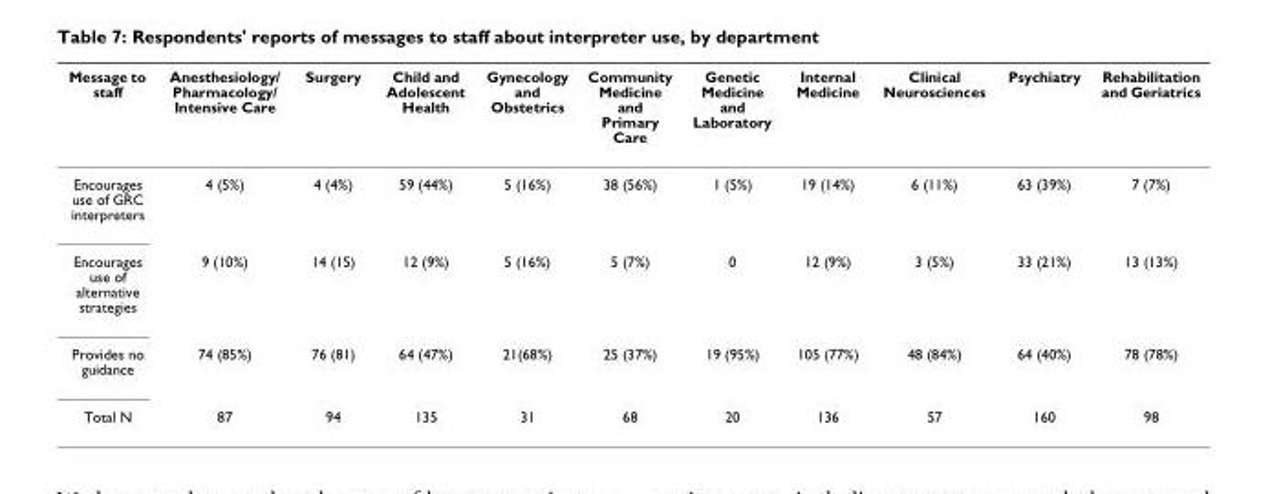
<table><thead><tr><td>Message to staff</td><td>Anesthesiology/ Pharmacology/ Intensive Care</td><td>Surgery</td><td>Child and Adolescent Health</td><td>Gynecology and Obstetrics</td><td>Community Medicine and Primary Care</td><td>Genetic Medicine and Laboratory</td><td>Internal Medicine</td><td>Clinical Neurosciences</td><td>Psychiatry</td><td>Rehabilitation and Geriatrics</td></tr></thead><tbody><tr><td>Encourages use of GRC interpreters</td><td>4 (5%)</td><td>4 (4%)</td><td>59 (44%)</td><td>5 (16%)</td><td>38 (56%)</td><td>1 (5%)</td><td>19 (14%)</td><td>6 (11%)</td><td>63 (39%)</td><td>7 (7%)</td></tr><tr><td>Encourages use of alternative strategies</td><td>9 (10%)</td><td>14 (15)</td><td>12 (9%)</td><td>5 (16%)</td><td>5 (7%)</td><td>0</td><td>12 (9%)</td><td>3 (5%)</td><td>33 (21%)</td><td>13 (13%)</td></tr><tr><td>Provides no guidance</td><td>74 (85%)</td><td>76 (81)</td><td>64 (47%)</td><td>21(68%)</td><td>25 (37%)</td><td>19 (95%)</td><td>105 (77%)</td><td>48 (84%)</td><td>64 (40%)</td><td>78 (78%)</td></tr><tr><td>Total N</td><td>87</td><td>94</td><td>135</td><td>31</td><td>68</td><td>20</td><td>136</td><td>57</td><td>160</td><td>98</td></tr></tbody></table>